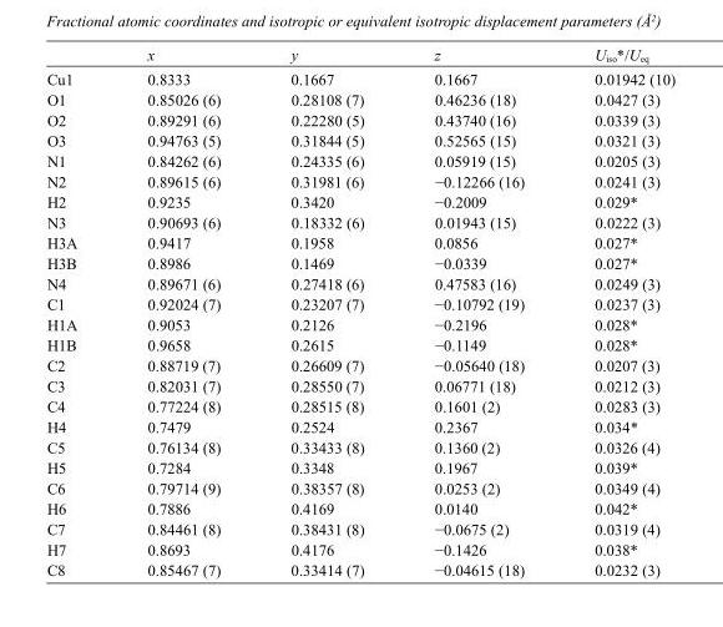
<table><thead><tr><td></td><td>x</td><td>y</td><td>z</td><td>U<sub>iso</sub>*/U<sub>eq</sub></td></tr></thead><tbody><tr><td>Cu1</td><td>0.8333</td><td>0.1667</td><td>0.1667</td><td>0.01942 (10)</td></tr><tr><td>O1</td><td>0.85026 (6)</td><td>0.28108 (7)</td><td>0.46236 (18)</td><td>0.0427 (3)</td></tr><tr><td>O2</td><td>0.89291 (6)</td><td>0.22280 (5)</td><td>0.43740 (16)</td><td>0.0339 (3)</td></tr><tr><td>O3</td><td>0.94763 (5)</td><td>0.31844 (5)</td><td>0.52565 (15)</td><td>0.0321 (3)</td></tr><tr><td>N1</td><td>0.84262 (6)</td><td>0.24335 (6)</td><td>0.05919 (15)</td><td>0.0205 (3)</td></tr><tr><td>N2</td><td>0.89615 (6)</td><td>0.31981 (6)</td><td>−0.12266 (16)</td><td>0.0241 (3)</td></tr><tr><td>H2</td><td>0.9235</td><td>0.3420</td><td>−0.2009</td><td>0.029*</td></tr><tr><td>N3</td><td>0.90693 (6)</td><td>0.18332 (6)</td><td>0.01943 (15)</td><td>0.0222 (3)</td></tr><tr><td>H3A</td><td>0.9417</td><td>0.1958</td><td>0.0856</td><td>0.027*</td></tr><tr><td>H3B</td><td>0.8986</td><td>0.1469</td><td>−0.0339</td><td>0.027*</td></tr><tr><td>N4</td><td>0.89671 (6)</td><td>0.27418 (6)</td><td>0.47583 (16)</td><td>0.0249 (3)</td></tr><tr><td>C1</td><td>0.92024 (7)</td><td>0.23207 (7)</td><td>−0.10792 (19)</td><td>0.0237 (3)</td></tr><tr><td>H1A</td><td>0.9053</td><td>0.2126</td><td>−0.2196</td><td>0.028*</td></tr><tr><td>H1B</td><td>0.9658</td><td>0.2615</td><td>−0.1149</td><td>0.028*</td></tr><tr><td>C2</td><td>0.88719 (7)</td><td>0.26609 (7)</td><td>−0.05640 (18)</td><td>0.0207 (3)</td></tr><tr><td>C3</td><td>0.82031 (7)</td><td>0.28550 (7)</td><td>0.06771 (18)</td><td>0.0212 (3)</td></tr><tr><td>C4</td><td>0.77224 (8)</td><td>0.28515 (8)</td><td>0.1601 (2)</td><td>0.0283 (3)</td></tr><tr><td>H4</td><td>0.7479</td><td>0.2524</td><td>0.2367</td><td>0.034*</td></tr><tr><td>C5</td><td>0.76134 (8)</td><td>0.33433 (8)</td><td>0.1360 (2)</td><td>0.0326 (4)</td></tr><tr><td>H5</td><td>0.7284</td><td>0.3348</td><td>0.1967</td><td>0.039*</td></tr><tr><td>C6</td><td>0.79714 (9)</td><td>0.38357 (8)</td><td>0.0253 (2)</td><td>0.0349 (4)</td></tr><tr><td>H6</td><td>0.7886</td><td>0.4169</td><td>0.0140</td><td>0.042*</td></tr><tr><td>C7</td><td>0.84461 (8)</td><td>0.38431 (8)</td><td>−0.0675 (2)</td><td>0.0319 (4)</td></tr><tr><td>H7</td><td>0.8693</td><td>0.4176</td><td>−0.1426</td><td>0.038*</td></tr><tr><td>C8</td><td>0.85467 (7)</td><td>0.33414 (7)</td><td>−0.04615 (18)</td><td>0.0232 (3)</td></tr></tbody></table>